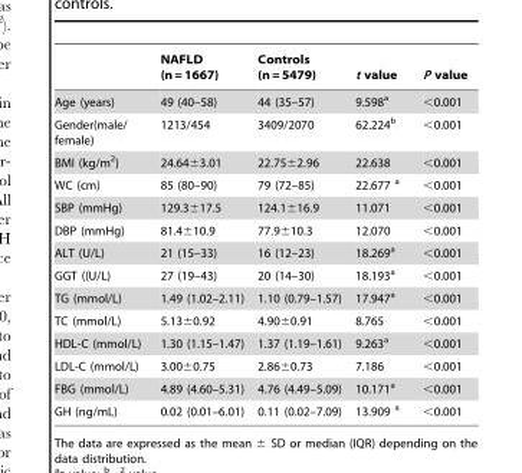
<table><thead><tr><td></td><td>NAFLD (n = 1667)</td><td>Controls (n = 5479)</td><td>t value</td><td>P value</td></tr></thead><tbody><tr><td>Age (years)</td><td>49 (40–58)</td><td>44 (35–57)</td><td>9.598<sup>a</sup></td><td>&lt;0.001</td></tr><tr><td>Gender(male/ female)</td><td>1213/454</td><td>3409/2070</td><td>62.224<sup>b</sup></td><td>&lt;0.001</td></tr><tr><td>BMI (kg/m<sup>2</sup>)</td><td>24.64±3.01</td><td>22.75±2.96</td><td>22.638</td><td>&lt;0.001</td></tr><tr><td>WC (cm)</td><td>85 (80–90)</td><td>79 (72–85)</td><td>22.677 a</td><td>&lt;0.001</td></tr><tr><td>SBP (mmHg)</td><td>129.3±17.5</td><td>124.1±16.9</td><td>11.071</td><td>&lt;0.001</td></tr><tr><td>DBP (mmHg)</td><td>81.4±10.9</td><td>77.9±10.3</td><td>12.070</td><td>&lt;0.001</td></tr><tr><td>ALT (U/L)</td><td>21 (15–33)</td><td>16 (12–23)</td><td>18.269<sup>a</sup></td><td>&lt;0.001</td></tr><tr><td>GGT ((U/L)</td><td>27 (19–43)</td><td>20 (14–30)</td><td>18.193<sup>a</sup></td><td>&lt;0.001</td></tr><tr><td>TG (mmol/L)</td><td>1.49 (1.02–2.11)</td><td>1.10 (0.79–1.57)</td><td>17.947<sup>a</sup></td><td>&lt;0.001</td></tr><tr><td>TC (mmol/L)</td><td>5.13±0.92</td><td>4.90±0.91</td><td>8.765</td><td>&lt;0.001</td></tr><tr><td>HDL-C (mmol/L)</td><td>1.30 (1.15–1.47)</td><td>1.37 (1.19–1.61)</td><td>9.263<sup>a</sup></td><td>&lt;0.001</td></tr><tr><td>LDL-C (mmol/L)</td><td>3.00±0.75</td><td>2.86±0.73</td><td>7.186</td><td>&lt;0.001</td></tr><tr><td>FBG (mmol/L)</td><td>4.89 (4.60–5.31)</td><td>4.76 (4.49–5.09)</td><td>10.171<sup>a</sup></td><td>&lt;0.001</td></tr><tr><td>GH (ng/mL)</td><td>0.02 (0.01–6.01)</td><td>0.11 (0.02–7.09)</td><td>13.909 a</td><td>&lt;0.001</td></tr></tbody></table>